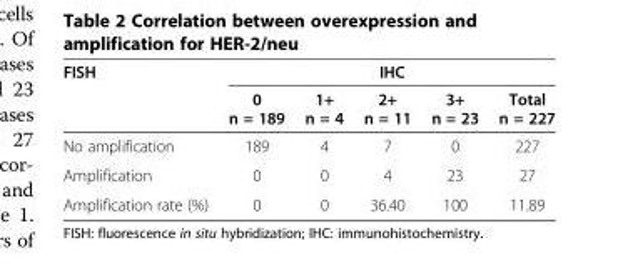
<table><thead><tr><td rowspan="2">FISH</td><td colspan="5">IHC</td></tr><tr><td>0 n = 189</td><td>1+ n = 4</td><td>2+ n = 11</td><td>3+ n = 23</td><td>Total n = 227</td></tr></thead><tbody><tr><td>No amplification</td><td>189</td><td>4</td><td>7</td><td>0</td><td>227</td></tr><tr><td>Amplification</td><td>0</td><td>0</td><td>4</td><td>23</td><td>27</td></tr><tr><td>Amplification rate (%)</td><td>0</td><td>0</td><td>36.40</td><td>100</td><td>11.89</td></tr></tbody></table>